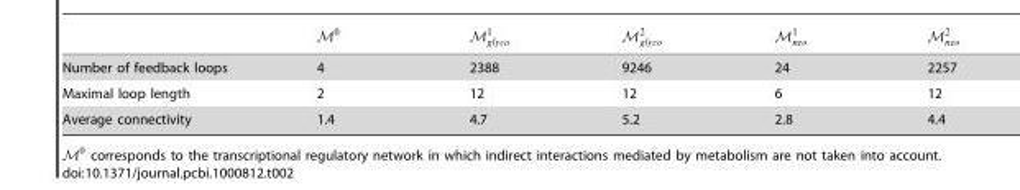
<table><tbody><tr><td>Number of feedback loops</td><td>4</td><td>2388</td><td>9246</td><td>24</td><td>2257</td></tr><tr><td>Maximal loop length</td><td>2</td><td>12</td><td>12</td><td>6</td><td>12</td></tr><tr><td>Average connectivity</td><td>1.4</td><td>4.7</td><td>5.2</td><td>2.8</td><td>4.4</td></tr></tbody></table>